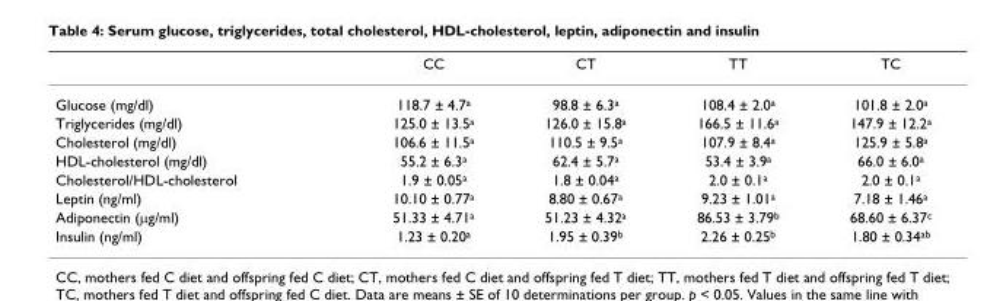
<table><thead><tr><td></td><td>CC</td><td>CT</td><td>TT</td><td>TC</td></tr></thead><tbody><tr><td>Glucose (mg/dl)</td><td>118.7 ± 4.7<sup>a</sup></td><td>98.8 ± 6.3<sup>a</sup></td><td>108.4 ± 2.0<sup>a</sup></td><td>101.8 ± 2.0<sup>a</sup></td></tr><tr><td>Triglycerides (mg/dl)</td><td>125.0 ± 13.5<sup>a</sup></td><td>126.0 ± 15.8<sup>a</sup></td><td>166.5 ± 11.6<sup>a</sup></td><td>147.9 ± 12.2<sup>a</sup></td></tr><tr><td>Cholesterol (mg/dl)</td><td>106.6 ± 11.5<sup>a</sup></td><td>110.5 ± 9.5<sup>a</sup></td><td>107.9 ± 8.4<sup>a</sup></td><td>125.9 ± 5.8<sup>a</sup></td></tr><tr><td>HDL-cholesterol (mg/dl)</td><td>55.2 ± 6.3<sup>a</sup></td><td>62.4 ± 5.7<sup>a</sup></td><td>53.4 ± 3.9<sup>a</sup></td><td>66.0 ± 6.0<sup>a</sup></td></tr><tr><td>Cholesterol/HDL-cholesterol</td><td>1.9 ± 0.05<sup>a</sup></td><td>1.8 ± 0.04<sup>a</sup></td><td>2.0 ± 0.1<sup>a</sup></td><td>2.0 ± 0.1<sup>a</sup></td></tr><tr><td>Leptin (ng/ml)</td><td>10.10 ± 0.77<sup>a</sup></td><td>8.80 ± 0.67<sup>a</sup></td><td>9.23 ± 1.01<sup>a</sup></td><td>7.18 ± 1.46<sup>a</sup></td></tr><tr><td>Adiponectin (μg/ml)</td><td>51.33 ± 4.71<sup>a</sup></td><td>51.23 ± 4.32<sup>a</sup></td><td>86.53 ± 3.79<sup>b</sup></td><td>68.60 ± 6.37<sup>c</sup></td></tr><tr><td>Insulin (ng/ml)</td><td>1.23 ± 0.20<sup>a</sup></td><td>1.95 ± 0.39<sup>b</sup></td><td>2.26 ± 0.25<sup>b</sup></td><td>1.80 ± 0.34<sup>ab</sup></td></tr></tbody></table>